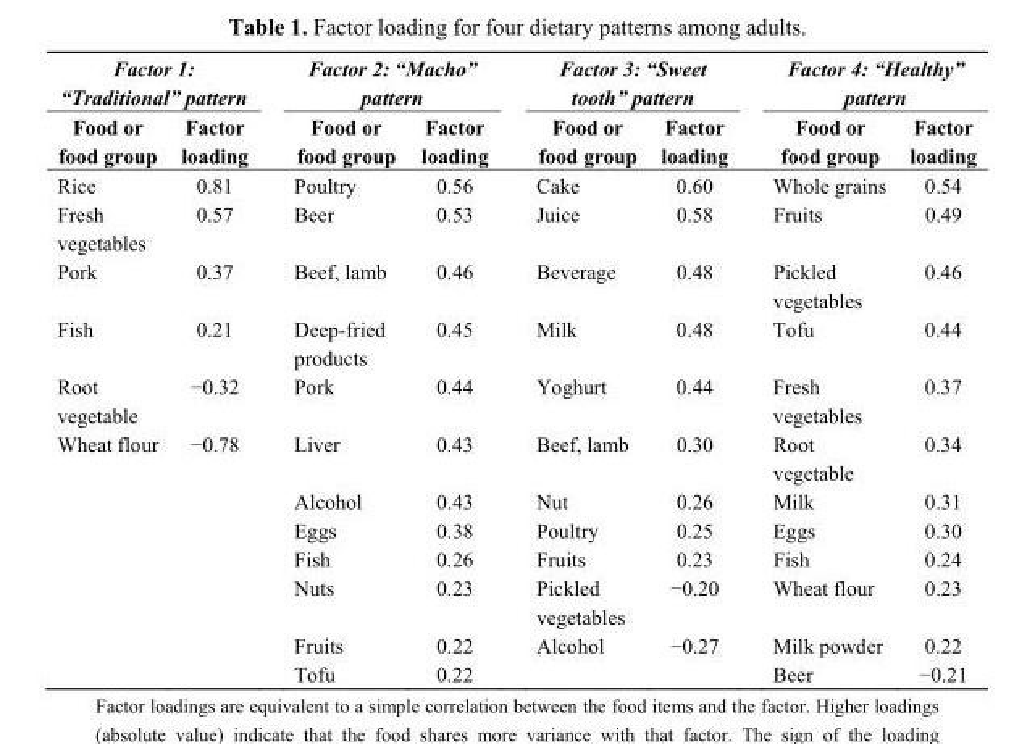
<table><thead><tr><td colspan="2">Factor 1: “Traditional” pattern</td><td colspan="2">Factor 2: “Macho” pattern</td><td colspan="2">Factor 3: “Sweet tooth” pattern</td><td colspan="2">Factor 4: “Healthy” pattern</td></tr><tr><td>Food or food group</td><td>Factor loading</td><td>Food or food group</td><td>Factor loading</td><td>Food or food group</td><td>Factor loading</td><td>Food or food group</td><td>Factor loading</td></tr></thead><tbody><tr><td>Rice</td><td>0.81</td><td>Poultry</td><td>0.56</td><td>Cake</td><td>0.60</td><td>Whole grains</td><td>0.54</td></tr><tr><td>Fresh vegetables</td><td>0.57</td><td>Beer</td><td>0.53</td><td>Juice</td><td>0.58</td><td>Fruits</td><td>0.49</td></tr><tr><td>Pork</td><td>0.37</td><td>Beef, lamb</td><td>0.46</td><td>Beverage</td><td>0.48</td><td>Pickled vegetables</td><td>0.46</td></tr><tr><td>Fish</td><td>0.21</td><td>Deep-fried products</td><td>0.45</td><td>Milk</td><td>0.48</td><td>Tofu</td><td>0.44</td></tr><tr><td>Root vegetable</td><td>−0.32</td><td>Pork</td><td>0.44</td><td>Yoghurt</td><td>0.44</td><td>Fresh vegetables</td><td>0.37</td></tr><tr><td rowspan="7">Wheat flour</td><td>−0.78</td><td>Liver</td><td>0.43</td><td>Beef, lamb</td><td>0.30</td><td>Root vegetable</td><td>0.34</td></tr><tr><td></td><td>Alcohol</td><td>0.43</td><td>Nut</td><td>0.26</td><td>Milk</td><td>0.31</td></tr><tr><td></td><td>Eggs</td><td>0.38</td><td>Poultry</td><td>0.25</td><td>Eggs</td><td>0.30</td></tr><tr><td></td><td>Fish</td><td>0.26</td><td>Fruits</td><td>0.23</td><td>Fish</td><td>0.24</td></tr><tr><td></td><td>Nuts</td><td>0.23</td><td>Pickled vegetables</td><td>−0.20</td><td>Wheat flour</td><td>0.23</td></tr><tr><td></td><td>Fruits</td><td>0.22</td><td>Alcohol</td><td>−0.27</td><td>Milk powder</td><td>0.22</td></tr><tr><td></td><td>Tofu</td><td>0.22</td><td></td><td></td><td>Beer</td><td>−0.21</td></tr></tbody></table>